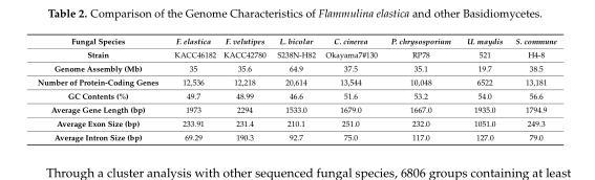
<table><thead><tr><td>Fungal Species</td><td>F. elastica</td><td>F. velutipes</td><td>L. bicolar</td><td>C. cinerea</td><td>P. chrysosporium</td><td>U. maydis</td><td>S. commune</td></tr></thead><tbody><tr><td>Strain</td><td>KACC46182</td><td>KACC42780</td><td>S238N-H82</td><td>Okayama7#130</td><td>RP78</td><td>521</td><td>H4-8</td></tr><tr><td>Genome Assembly (Mb)</td><td>35</td><td>35.6</td><td>64.9</td><td>37.5</td><td>35.1</td><td>19.7</td><td>38.5</td></tr><tr><td>Number of Protein-Coding Genes</td><td>12,536</td><td>12,218</td><td>20,614</td><td>13,544</td><td>10,048</td><td>6522</td><td>13,181</td></tr><tr><td>GC Contents (%)</td><td>49.7</td><td>48.99</td><td>46.6</td><td>51.6</td><td>53.2</td><td>54.0</td><td>56.6</td></tr><tr><td>Average Gene Length (bp)</td><td>1973</td><td>2294</td><td>1533.0</td><td>1679.0</td><td>1667.0</td><td>1935.0</td><td>1794.9</td></tr><tr><td>Average Exon Size (bp)</td><td>233.91</td><td>231.4</td><td>210.1</td><td>251.0</td><td>232.0</td><td>1051.0</td><td>249.3</td></tr><tr><td>Average Intron Size (bp)</td><td>69.29</td><td>190.3</td><td>92.7</td><td>75.0</td><td>117.0</td><td>127.0</td><td>79.0</td></tr></tbody></table>